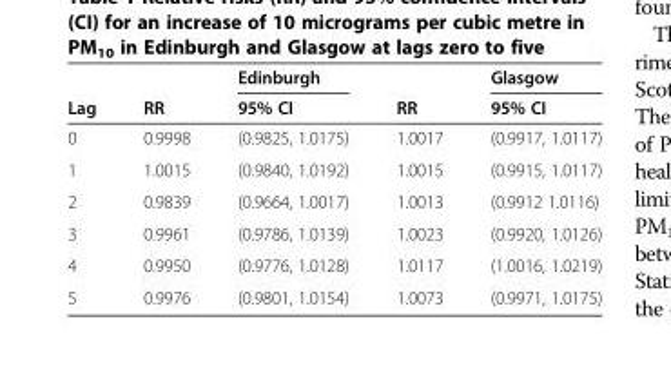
<table><thead><tr><td rowspan="2">Lag</td><td rowspan="2">RR</td><td rowspan="2">Edinburgh 95% CI</td><td rowspan="2">RR</td><td rowspan="2">Glasgow 95% CI</td></tr><tr></tr></thead><tbody><tr><td>0</td><td>0.9998</td><td>(0.9825, 1.0175)</td><td>1.0017</td><td>(0.9917, 1.0117)</td></tr><tr><td>1</td><td>1.0015</td><td>(0.9840, 1.0192)</td><td>1.0015</td><td>(0.9915, 1.0117)</td></tr><tr><td>2</td><td>0.9839</td><td>(0.9664, 1.0017)</td><td>1.0013</td><td>(0.9912 1.0116)</td></tr><tr><td>3</td><td>0.9961</td><td>(0.9786, 1.0139)</td><td>1.0023</td><td>(0.9920, 1.0126)</td></tr><tr><td>4</td><td>0.9950</td><td>(0.9776, 1.0128)</td><td>1.0117</td><td>(1.0016, 1.0219)</td></tr><tr><td>5</td><td>0.9976</td><td>(0.9801, 1.0154)</td><td>1.0073</td><td>(0.9971, 1.0175)</td></tr></tbody></table>